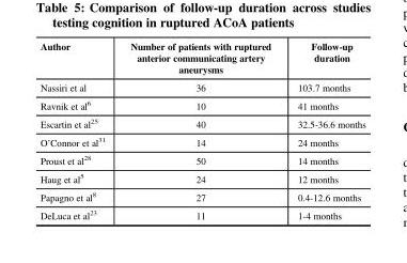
<table><thead><tr><td>Author</td><td>Number of patients with ruptured anterior communicating artery aneurysms</td><td>Follow-up duration</td></tr></thead><tbody><tr><td>Nassiri et al</td><td>36</td><td>103.7 months</td></tr><tr><td>Ravnik et al<sup>6</sup></td><td>10</td><td>41 months</td></tr><tr><td>Escartin et al<sup>25</sup></td><td>40</td><td>32.5-36.6 months</td></tr><tr><td>O’Connor et al<sup>31</sup></td><td>14</td><td>24 months</td></tr><tr><td>Proust et al<sup>28</sup></td><td>50</td><td>14 months</td></tr><tr><td>Haug et al<sup>5</sup></td><td>24</td><td>12 months</td></tr><tr><td>Papagno et al<sup>8</sup></td><td>27</td><td>0.4-12.6 months</td></tr><tr><td>DeLuca et al<sup>23</sup></td><td>11</td><td>1-4 months</td></tr></tbody></table>